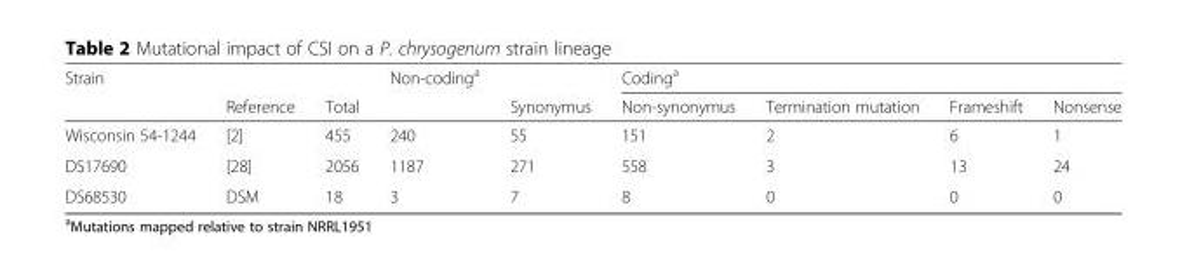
<table><thead><tr><td rowspan="2">Strain</td><td rowspan="2">Reference</td><td rowspan="2">Total</td><td rowspan="2">Non-coding<sup>a</sup></td><td rowspan="2">Synonymus</td><td colspan="4">Coding<sup>a</sup></td></tr><tr><td>Non-synonymus</td><td>Termination mutation</td><td>Frameshift</td><td>Nonsense</td></tr></thead><tbody><tr><td>Wisconsin 54-1244</td><td>[2]</td><td>455</td><td>240</td><td>55</td><td>151</td><td>2</td><td>6</td><td>1</td></tr><tr><td>DS17690</td><td>[28]</td><td>2056</td><td>1187</td><td>271</td><td>558</td><td>3</td><td>13</td><td>24</td></tr><tr><td>DS68530</td><td>DSM</td><td>18</td><td>3</td><td>7</td><td>8</td><td>0</td><td>0</td><td>0</td></tr></tbody></table>